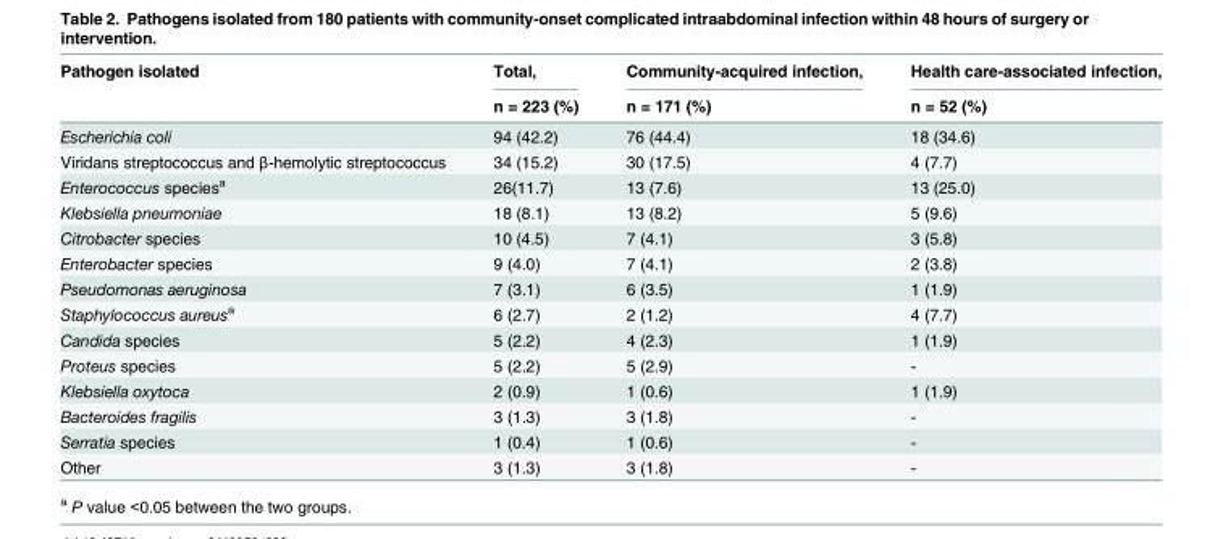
<table><thead><tr><td rowspan="2">Pathogen isolated</td><td rowspan="2">Total, n = 223 (%)</td><td rowspan="2">Community-acquired infection, n = 171 (%)</td><td rowspan="2">Health care-associated infection, n = 52 (%)</td></tr><tr></tr></thead><tbody><tr><td>Escherichia coli</td><td>94 (42.2)</td><td>76 (44.4)</td><td>18 (34.6)</td></tr><tr><td>Viridans streptococcus and β-hemolytic streptococcus</td><td>34 (15.2)</td><td>30 (17.5)</td><td>4 (7.7)</td></tr><tr><td>Enterococcus species<sup>a</sup></td><td>26(11.7)</td><td>13 (7.6)</td><td>13 (25.0)</td></tr><tr><td>Klebsiella pneumoniae</td><td>18 (8.1)</td><td>13 (8.2)</td><td>5 (9.6)</td></tr><tr><td>Citrobacter species</td><td>10 (4.5)</td><td>7 (4.1)</td><td>3 (5.8)</td></tr><tr><td>Enterobacter species</td><td>9 (4.0)</td><td>7 (4.1)</td><td>2 (3.8)</td></tr><tr><td>Pseudomonas aeruginosa</td><td>7 (3.1)</td><td>6 (3.5)</td><td>1 (1.9)</td></tr><tr><td>Staphylococcus aureus<sup>a</sup></td><td>6 (2.7)</td><td>2 (1.2)</td><td>4 (7.7)</td></tr><tr><td>Candida species</td><td>5 (2.2)</td><td>4 (2.3)</td><td>1 (1.9)</td></tr><tr><td>Proteus species</td><td>5 (2.2)</td><td>5 (2.9)</td><td>-</td></tr><tr><td>Klebsiella oxytoca</td><td>2 (0.9)</td><td>1 (0.6)</td><td>1 (1.9)</td></tr><tr><td>Bacteroides fragilis</td><td>3 (1.3)</td><td>3 (1.8)</td><td>-</td></tr><tr><td>Serratia species</td><td>1 (0.4)</td><td>1 (0.6)</td><td>-</td></tr><tr><td>Other</td><td>3 (1.3)</td><td>3 (1.8)</td><td>-</td></tr></tbody></table>